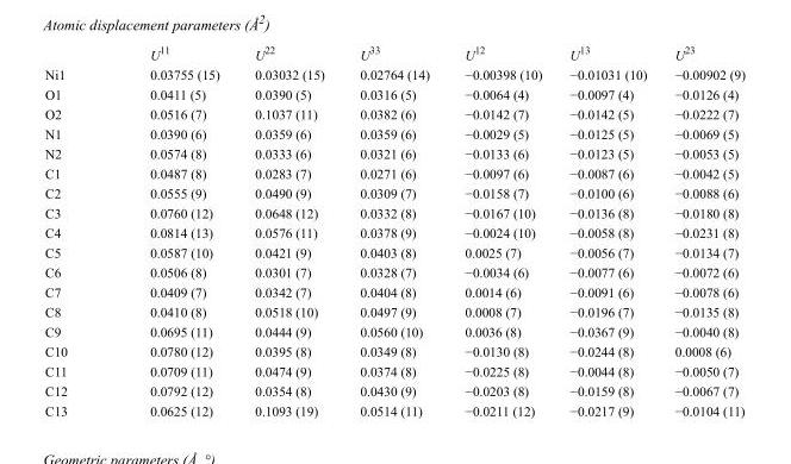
<table><thead><tr><td></td><td>U<sup>11</sup></td><td>U<sup>22</sup></td><td>U<sup>33</sup></td><td>U<sup>12</sup></td><td>U<sup>13</sup></td><td>U<sup>23</sup></td></tr></thead><tbody><tr><td>Ni1</td><td>0.03755 (15)</td><td>0.03032 (15)</td><td>0.02764 (14)</td><td>−0.00398 (10)</td><td>−0.01031 (10)</td><td>−0.00902 (9)</td></tr><tr><td>O1</td><td>0.0411 (5)</td><td>0.0390 (5)</td><td>0.0316 (5)</td><td>−0.0064 (4)</td><td>−0.0097 (4)</td><td>−0.0126 (4)</td></tr><tr><td>O2</td><td>0.0516 (7)</td><td>0.1037 (11)</td><td>0.0382 (6)</td><td>−0.0142 (7)</td><td>−0.0142 (5)</td><td>−0.0222 (7)</td></tr><tr><td>N1</td><td>0.0390 (6)</td><td>0.0359 (6)</td><td>0.0359 (6)</td><td>−0.0029 (5)</td><td>−0.0125 (5)</td><td>−0.0069 (5)</td></tr><tr><td>N2</td><td>0.0574 (8)</td><td>0.0333 (6)</td><td>0.0321 (6)</td><td>−0.0133 (6)</td><td>−0.0123 (5)</td><td>−0.0053 (5)</td></tr><tr><td>C1</td><td>0.0487 (8)</td><td>0.0283 (7)</td><td>0.0271 (6)</td><td>−0.0097 (6)</td><td>−0.0087 (6)</td><td>−0.0042 (5)</td></tr><tr><td>C2</td><td>0.0555 (9)</td><td>0.0490 (9)</td><td>0.0309 (7)</td><td>−0.0158 (7)</td><td>−0.0100 (6)</td><td>−0.0088 (6)</td></tr><tr><td>C3</td><td>0.0760 (12)</td><td>0.0648 (12)</td><td>0.0332 (8)</td><td>−0.0167 (10)</td><td>−0.0136 (8)</td><td>−0.0180 (8)</td></tr><tr><td>C4</td><td>0.0814 (13)</td><td>0.0576 (11)</td><td>0.0378 (9)</td><td>−0.0024 (10)</td><td>−0.0058 (8)</td><td>−0.0231 (8)</td></tr><tr><td>C5</td><td>0.0587 (10)</td><td>0.0421 (9)</td><td>0.0403 (8)</td><td>0.0025 (7)</td><td>−0.0056 (7)</td><td>−0.0134 (7)</td></tr><tr><td>C6</td><td>0.0506 (8)</td><td>0.0301 (7)</td><td>0.0328 (7)</td><td>−0.0034 (6)</td><td>−0.0077 (6)</td><td>−0.0072 (6)</td></tr><tr><td>C7</td><td>0.0409 (7)</td><td>0.0342 (7)</td><td>0.0404 (8)</td><td>0.0014 (6)</td><td>−0.0091 (6)</td><td>−0.0078 (6)</td></tr><tr><td>C8</td><td>0.0410 (8)</td><td>0.0518 (10)</td><td>0.0497 (9)</td><td>0.0008 (7)</td><td>−0.0196 (7)</td><td>−0.0135 (8)</td></tr><tr><td>C9</td><td>0.0695 (11)</td><td>0.0444 (9)</td><td>0.0560 (10)</td><td>0.0036 (8)</td><td>−0.0367 (9)</td><td>−0.0040 (8)</td></tr><tr><td>C10</td><td>0.0780 (12)</td><td>0.0395 (8)</td><td>0.0349 (8)</td><td>−0.0130 (8)</td><td>−0.0244 (8)</td><td>0.0008 (6)</td></tr><tr><td>C11</td><td>0.0709 (11)</td><td>0.0474 (9)</td><td>0.0374 (8)</td><td>−0.0225 (8)</td><td>−0.0044 (8)</td><td>−0.0050 (7)</td></tr><tr><td>C12</td><td>0.0792 (12)</td><td>0.0354 (8)</td><td>0.0430 (9)</td><td>−0.0203 (8)</td><td>−0.0159 (8)</td><td>−0.0067 (7)</td></tr><tr><td>C13</td><td>0.0625 (12)</td><td>0.1093 (19)</td><td>0.0514 (11)</td><td>−0.0211 (12)</td><td>−0.0217 (9)</td><td>−0.0104 (11)</td></tr></tbody></table>